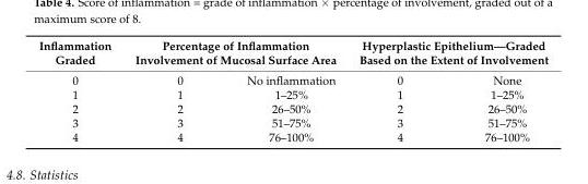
<table><thead><tr><td rowspan="2">Inflammation Graded 0</td><td colspan="2">Percentage of Inflammation Involvement of Mucosal Surface Area</td><td colspan="2">Hyperplastic Epithelium—Graded Based on the Extent of Involvement</td></tr><tr><td>0</td><td>No inflammation</td><td>0</td><td>None</td></tr></thead><tbody><tr><td>1</td><td>1</td><td>1–25%</td><td>1</td><td>1–25%</td></tr><tr><td>2</td><td>2</td><td>26–50%</td><td>2</td><td>26–50%</td></tr><tr><td>3</td><td>3</td><td>51–75%</td><td>3</td><td>51–75%</td></tr><tr><td>4</td><td>4</td><td>76–100%</td><td>4</td><td>76–100%</td></tr></tbody></table>